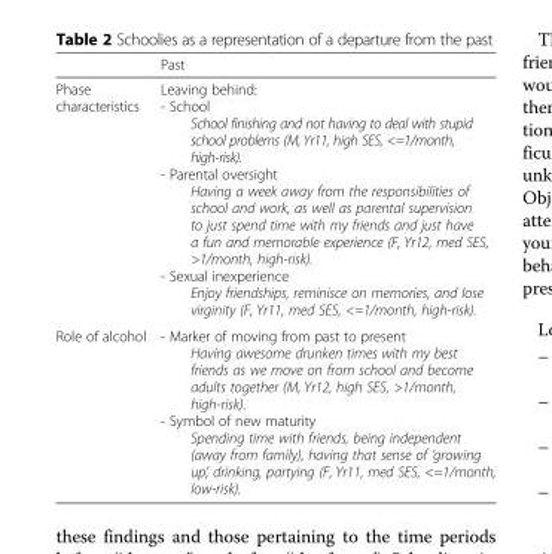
<table><thead><tr><td></td><td>Past</td></tr></thead><tbody><tr><td>Phase characteristics</td><td>Leaving behind: - School School finishing and not having to deal with stupid school problems (M, Yr11, high SES, &lt;=1/month, high-risk). - Parental oversight Having a week away from the responsibilities of school and work, as well as parental supervision to just spend time with my friends and just have a fun and memorable experience (F, Yr12, med SES, &gt;1/month, high-risk). - Sexual inexperience Enjoy friendships, reminisce on memories, and lose virginity (F, Yr11, med SES, &lt;=1/month, high-risk).</td></tr><tr><td>Role of alcohol</td><td>- Marker of moving from past to present Having awesome drunken times with my best friends as we move on from school and become adults together (M, Yr12, high SES, &gt;1/month, high-risk). - Symbol of new maturity Spending time with friends, being independent (away from family), having that sense of ‘growing up’, drinking, partying (F, Yr11, med SES, &lt;=1/month, low-risk).</td></tr></tbody></table>